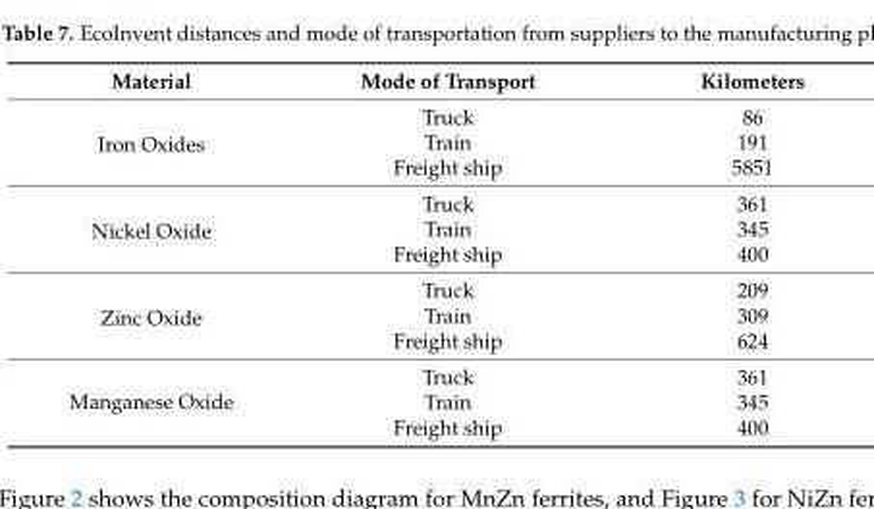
<table><thead><tr><td>Material</td><td>Mode of Transport</td><td>Kilometers</td></tr></thead><tbody><tr><td rowspan="3">Iron Oxides</td><td>Truck</td><td>86</td></tr><tr><td>Train</td><td>191</td></tr><tr><td>Freight ship</td><td>5851</td></tr><tr><td rowspan="3">Nickel Oxide</td><td>Truck</td><td>361</td></tr><tr><td>Train</td><td>345</td></tr><tr><td>Freight ship</td><td>400</td></tr><tr><td rowspan="3">Zinc Oxide</td><td>Truck</td><td>209</td></tr><tr><td>Train</td><td>309</td></tr><tr><td>Freight ship</td><td>624</td></tr><tr><td rowspan="3">Manganese Oxide</td><td>Truck</td><td>361</td></tr><tr><td>Train</td><td>345</td></tr><tr><td>Freight ship</td><td>400</td></tr></tbody></table>